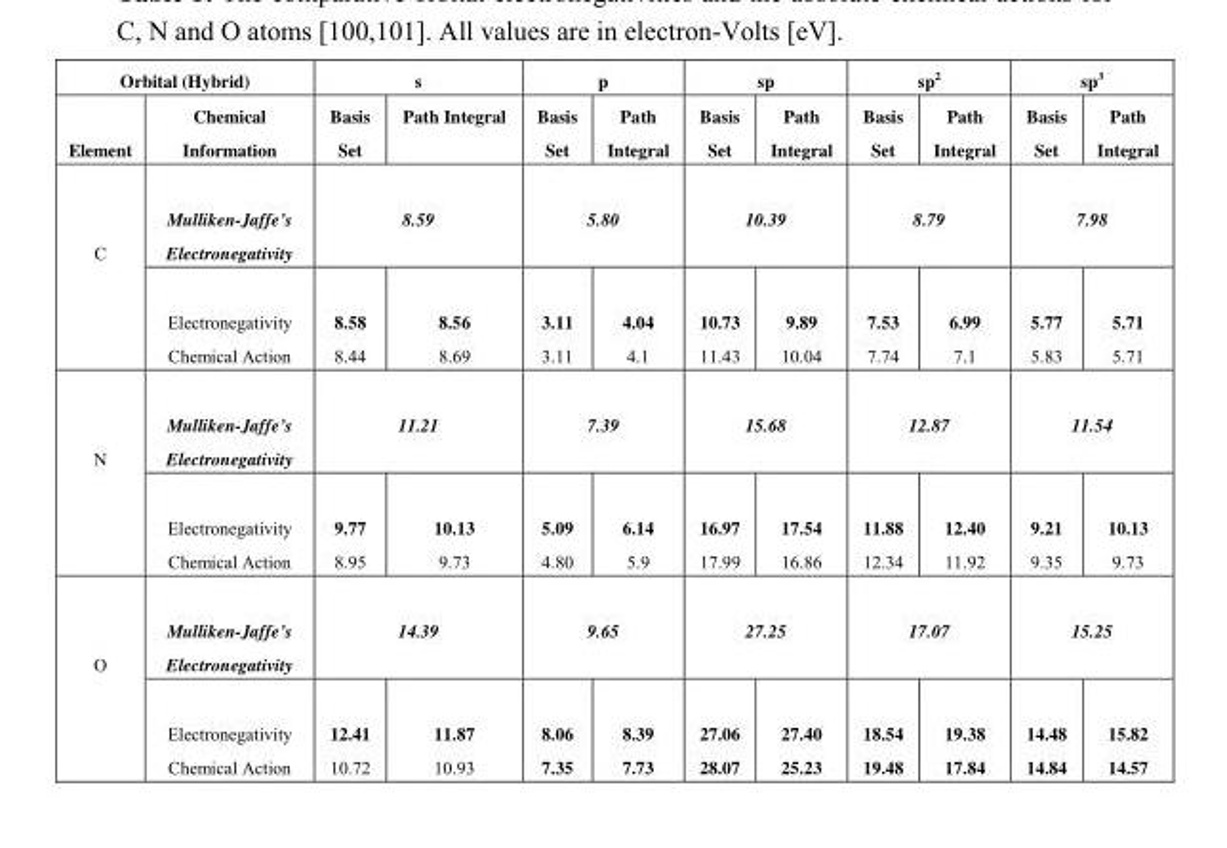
<table><thead><tr><td colspan="2">Orbital (Hybrid)</td><td colspan="2">s</td><td colspan="2">p</td><td colspan="2">sp</td><td colspan="2">sp2</td><td colspan="2">sp3</td></tr><tr><td>Element</td><td>Chemical Information</td><td>Basis Set</td><td>Path Integral</td><td>Basis Set</td><td>Path Integral</td><td>Basis Set</td><td>Path Integral</td><td>Basis Set</td><td>Path Integral</td><td>Basis Set</td><td>Path Integral</td></tr></thead><tbody><tr><td rowspan="2">C</td><td>Mulliken-Jaffe’s Electronegativity</td><td colspan="2">8.59</td><td colspan="2">5.80</td><td colspan="2">10.39</td><td colspan="2">8.79</td><td colspan="2">7.98</td></tr><tr><td>Electronegativity Chemical Action</td><td>8.58 8.44</td><td>8.56 8.69</td><td>3.11 3.11</td><td>4.04 4.1</td><td>10.73 11.43</td><td>9.89 10.04</td><td>7.53 7.74</td><td>6.99 7.1</td><td>5.77 5.83</td><td>5.71 5.71</td></tr><tr><td rowspan="2">N</td><td>Mulliken-Jaffe’s Electronegativity</td><td colspan="2">11.21</td><td colspan="2">7.39</td><td colspan="2">15.68</td><td colspan="2">12.87</td><td colspan="2">11.54</td></tr><tr><td>Electronegativity Chemical Action</td><td>9.77 8.95</td><td>10.13 9.73</td><td>5.09 4.80</td><td>6.14 5.9</td><td>16.97 17.99</td><td>17.54 16.86</td><td>11.88 12.34</td><td>12.40 11.92</td><td>9.21 9.35</td><td>10.13 9.73</td></tr><tr><td rowspan="2">O</td><td>Mulliken-Jaffe’s Electronegativity</td><td colspan="2">14.39</td><td colspan="2">9.65</td><td colspan="2">27.25</td><td colspan="2">17.07</td><td colspan="2">15.25</td></tr><tr><td>Electronegativity Chemical Action</td><td>12.41 10.72</td><td>11.87 10.93</td><td>8.06 7.35</td><td>8.39 7.73</td><td>27.06 28.07</td><td>27.40 25.23</td><td>18.54 19.48</td><td>19.38 17.84</td><td>14.48 14.84</td><td>15.82 14.57</td></tr></tbody></table>